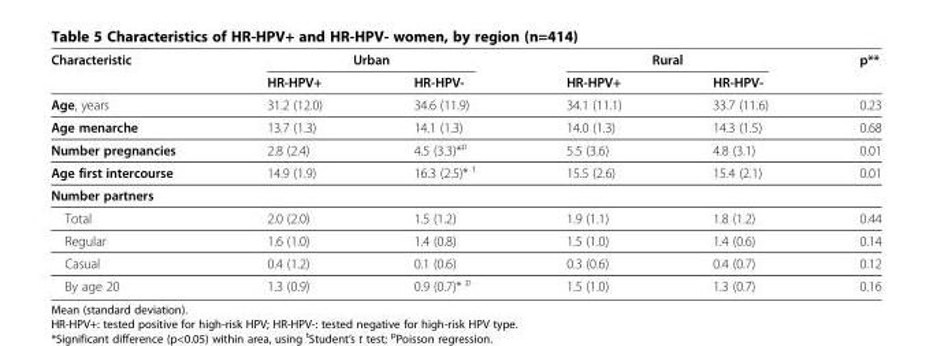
<table><thead><tr><td rowspan="2">Characteristic</td><td colspan="2">Urban</td><td colspan="2">Rural</td><td rowspan="2">p**</td></tr><tr><td>HR-HPV+</td><td>HR-HPV-</td><td>HR-HPV+</td><td>HR-HPV-</td></tr></thead><tbody><tr><td>Age, years</td><td>31.2 (12.0)</td><td>34.6 (11.9)</td><td>34.1 (11.1)</td><td>33.7 (11.6)</td><td>0.23</td></tr><tr><td>Age menarche</td><td>13.7 (1.3)</td><td>14.1 (1.3)</td><td>14.0 (1.3)</td><td>14.3 (1.5)</td><td>0.68</td></tr><tr><td>Number pregnancies</td><td>2.8 (2.4)</td><td>4.5 (3.3)*<sup>p</sup></td><td>5.5 (3.6)</td><td>4.8 (3.1)</td><td>0.01</td></tr><tr><td>Age first intercourse</td><td>14.9 (1.9)</td><td>16.3 (2.5)* <sup>t</sup></td><td>15.5 (2.6)</td><td>15.4 (2.1)</td><td>0.01</td></tr><tr><td colspan="6">Number partners</td></tr><tr><td>Total</td><td>2.0 (2.0)</td><td>1.5 (1.2)</td><td>1.9 (1.1)</td><td>1.8 (1.2)</td><td>0.44</td></tr><tr><td>Regular</td><td>1.6 (1.0)</td><td>1.4 (0.8)</td><td>1.5 (1.0)</td><td>1.4 (0.6)</td><td>0.14</td></tr><tr><td>Casual</td><td>0.4 (1.2)</td><td>0.1 (0.6)</td><td>0.3 (0.6)</td><td>0.4 (0.7)</td><td>0.12</td></tr><tr><td>By age 20</td><td>1.3 (0.9)</td><td>0.9 (0.7)* <sup>p</sup></td><td>1.5 (1.0)</td><td>1.3 (0.7)</td><td>0.16</td></tr></tbody></table>